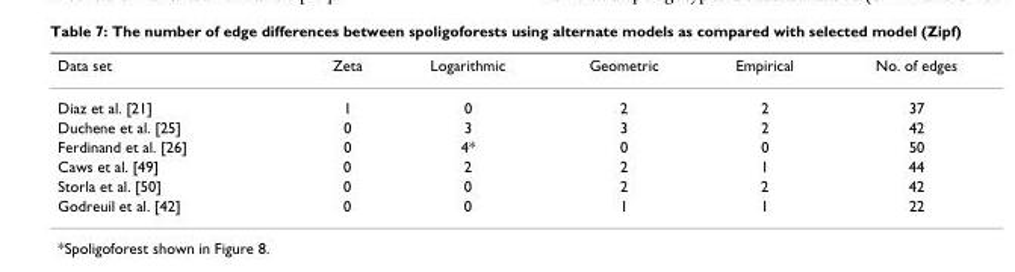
<table><thead><tr><td>Data set</td><td>Zeta</td><td>Logarithmic</td><td>Geometric</td><td>Empirical</td><td>No. of edges</td></tr></thead><tbody><tr><td>Diaz et al. [21]</td><td>1</td><td>0</td><td>2</td><td>2</td><td>37</td></tr><tr><td>Duchene et al. [25]</td><td>0</td><td>3</td><td>3</td><td>2</td><td>42</td></tr><tr><td>Ferdinand et al. [26]</td><td>0</td><td>4*</td><td>0</td><td>0</td><td>50</td></tr><tr><td>Caws et al. [49]</td><td>0</td><td>2</td><td>2</td><td>1</td><td>44</td></tr><tr><td>Storla et al. [50]</td><td>0</td><td>0</td><td>2</td><td>2</td><td>42</td></tr><tr><td>Godreuil et al. [42]</td><td>0</td><td>0</td><td>1</td><td>1</td><td>22</td></tr></tbody></table>